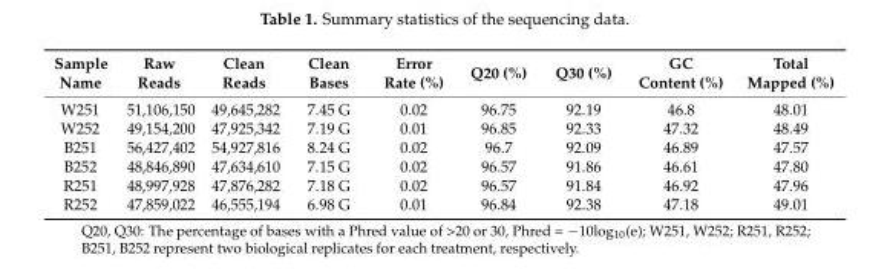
<table><thead><tr><td>Sample Name</td><td>Raw Reads</td><td>Clean Reads</td><td>Clean Bases</td><td>Error Rate (%)</td><td>Q20 (%)</td><td>Q30 (%)</td><td>GC Content (%)</td><td>Total Mapped (%)</td></tr></thead><tbody><tr><td>W251</td><td>51,106,150</td><td>49,645,282</td><td>7.45 G</td><td>0.02</td><td>96.75</td><td>92.19</td><td>46.8</td><td>48.01</td></tr><tr><td>W252</td><td>49,154,200</td><td>47,925,342</td><td>7.19 G</td><td>0.01</td><td>96.85</td><td>92.33</td><td>47.32</td><td>48.49</td></tr><tr><td>B251</td><td>56,427,402</td><td>54,927,816</td><td>8.24 G</td><td>0.02</td><td>96.7</td><td>92.09</td><td>46.89</td><td>47.57</td></tr><tr><td>B252</td><td>48,846,890</td><td>47,634,610</td><td>7.15 G</td><td>0.02</td><td>96.57</td><td>91.86</td><td>46.61</td><td>47.80</td></tr><tr><td>R251</td><td>48,997,928</td><td>47,876,282</td><td>7.18 G</td><td>0.02</td><td>96.57</td><td>91.84</td><td>46.92</td><td>47.96</td></tr><tr><td>R252</td><td>47,859,022</td><td>46,555,194</td><td>6.98 G</td><td>0.01</td><td>96.84</td><td>92.38</td><td>47.18</td><td>49.01</td></tr></tbody></table>